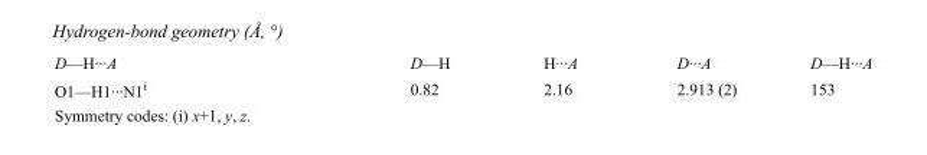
<table><tbody><tr><td>D—H···A</td><td>D—H</td><td>H···A</td><td>D···A</td><td>D—H···A</td></tr><tr><td>O1—H1···N1<sup>i</sup></td><td>0.82</td><td>2.16</td><td>2.913 (2)</td><td>153</td></tr></tbody></table>